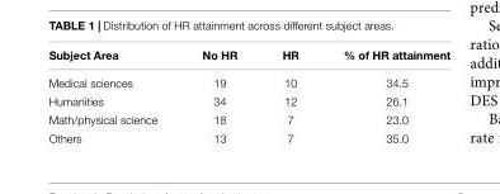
<table><thead><tr><td>Subject Area</td><td>No HR</td><td>HR</td><td>% of HR attainment</td></tr></thead><tbody><tr><td>Medical sciences</td><td>19</td><td>10</td><td>34.5</td></tr><tr><td>Humanities</td><td>34</td><td>12</td><td>26.1</td></tr><tr><td>Math/physical science</td><td>18</td><td>7</td><td>23.0</td></tr><tr><td>Others</td><td>13</td><td>7</td><td>35.0</td></tr></tbody></table>